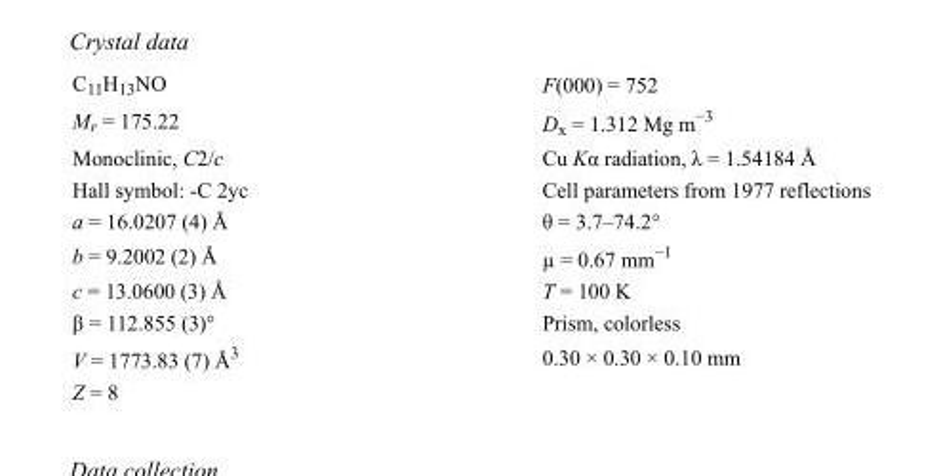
<table><tbody><tr><td>C<sub>11</sub>H<sub>13</sub>NO</td><td>F(000) = 752</td></tr><tr><td>M<sub>r</sub> = 175.22</td><td>D<sub>x</sub> = 1.312 Mg m<sup>−3</sup></td></tr><tr><td>Monoclinic, C2/c</td><td>Cu Kα radiation, λ = 1.54184 Å</td></tr><tr><td>Hall symbol: -C 2yc</td><td>Cell parameters from 1977 reflections</td></tr><tr><td>a = 16.0207 (4) Å</td><td>θ = 3.7–74.2°</td></tr><tr><td>b = 9.2002 (2) Å</td><td>µ = 0.67 mm<sup>−1</sup></td></tr><tr><td>c = 13.0600 (3) Å</td><td>T = 100 K</td></tr><tr><td>β = 112.855 (3)°</td><td>Prism, colorless</td></tr><tr><td>V = 1773.83 (7) Å<sup>3</sup></td><td>0.30 × 0.30 × 0.10 mm</td></tr><tr><td>Z = 8</td><td></td></tr></tbody></table>